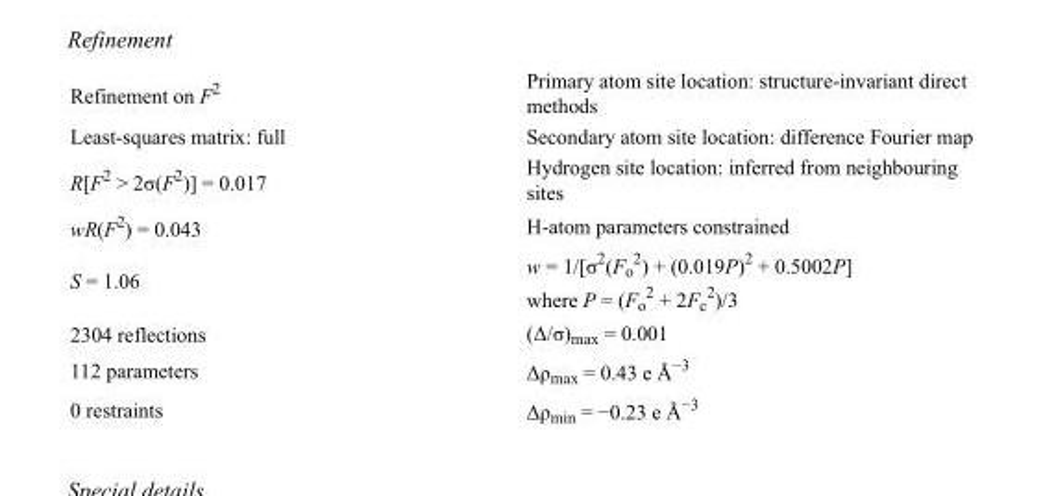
<table><tbody><tr><td>Refinement on F<sup>2</sup></td><td>Primary atom site location: structure-invariant direct methods</td></tr><tr><td>Least-squares matrix: full</td><td>Secondary atom site location: difference Fourier map</td></tr><tr><td>R[F<sup>2</sup> &gt; 2σ(F<sup>2</sup>)] = 0.017</td><td>Hydrogen site location: inferred from neighbouring sites</td></tr><tr><td>wR(F<sup>2</sup>) = 0.043</td><td>H-atom parameters constrained</td></tr><tr><td>S = 1.06</td><td>w = 1/[σ<sup>2</sup>(F<sub>o</sub> <sup>2</sup>) + (0.019P)<sup>2</sup> + 0.5002P] where P = (F<sub>o</sub> <sup>2</sup> + 2F<sub>c</sub> <sup>2</sup>)/3</td></tr><tr><td>2304 reflections</td><td>(Δ/σ)<sub>max</sub> = 0.001</td></tr><tr><td>112 parameters</td><td>Δρ<sub>max</sub> = 0.43 e Å<sup>−3</sup></td></tr><tr><td>0 restraints</td><td>Δρ<sub>min</sub> = −0.23 e Å<sup>−3</sup></td></tr></tbody></table>